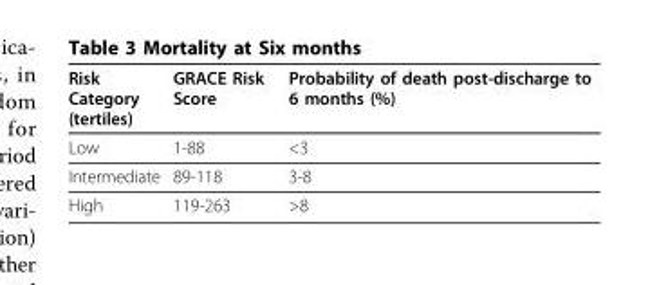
<table><thead><tr><td>Risk Category (tertiles)</td><td>GRACE Risk Score</td><td>Probability of death post-discharge to 6 months (%)</td></tr></thead><tbody><tr><td>Low</td><td>1-88</td><td>&lt;3</td></tr><tr><td>Intermediate</td><td>89-118</td><td>3-8</td></tr><tr><td>High</td><td>119-263</td><td>&gt;8</td></tr></tbody></table>